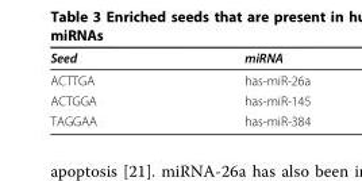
<table><thead><tr><td>Seed</td><td>miRNA</td></tr></thead><tbody><tr><td>ACTTGA</td><td>has-miR-26a</td></tr><tr><td>ACTGGA</td><td>has-miR-145</td></tr><tr><td>TAGGAA</td><td>has-miR-384</td></tr></tbody></table>